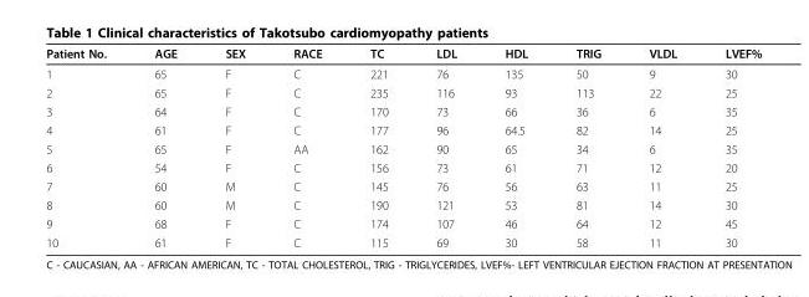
<table><thead><tr><td>Patient No.</td><td>AGE</td><td>SEX</td><td>RACE</td><td>TC</td><td>LDL</td><td>HDL</td><td>TRIG</td><td>VLDL</td><td>LVEF%</td></tr></thead><tbody><tr><td>1</td><td>65</td><td>F</td><td>C</td><td>221</td><td>76</td><td>135</td><td>50</td><td>9</td><td>30</td></tr><tr><td>2</td><td>65</td><td>F</td><td>C</td><td>235</td><td>116</td><td>93</td><td>113</td><td>22</td><td>25</td></tr><tr><td>3</td><td>64</td><td>F</td><td>C</td><td>170</td><td>73</td><td>66</td><td>36</td><td>6</td><td>35</td></tr><tr><td>4</td><td>61</td><td>F</td><td>C</td><td>177</td><td>96</td><td>64.5</td><td>82</td><td>14</td><td>25</td></tr><tr><td>5</td><td>65</td><td>F</td><td>AA</td><td>162</td><td>90</td><td>65</td><td>34</td><td>6</td><td>35</td></tr><tr><td>6</td><td>54</td><td>F</td><td>C</td><td>156</td><td>73</td><td>61</td><td>71</td><td>12</td><td>20</td></tr><tr><td>7</td><td>60</td><td>M</td><td>C</td><td>145</td><td>76</td><td>56</td><td>63</td><td>11</td><td>25</td></tr><tr><td>8</td><td>60</td><td>M</td><td>C</td><td>190</td><td>121</td><td>53</td><td>81</td><td>14</td><td>30</td></tr><tr><td>9</td><td>68</td><td>F</td><td>C</td><td>174</td><td>107</td><td>46</td><td>64</td><td>12</td><td>45</td></tr><tr><td>10</td><td>61</td><td>F</td><td>C</td><td>115</td><td>69</td><td>30</td><td>58</td><td>11</td><td>30</td></tr></tbody></table>